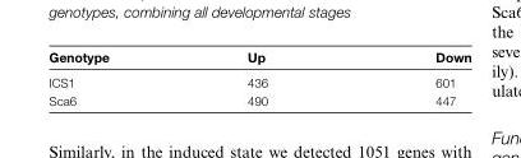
<table><thead><tr><td>Genotype</td><td>Up</td><td>Down</td></tr></thead><tbody><tr><td>ICS1</td><td>436</td><td>601</td></tr><tr><td>Sca6</td><td>490</td><td>447</td></tr></tbody></table>